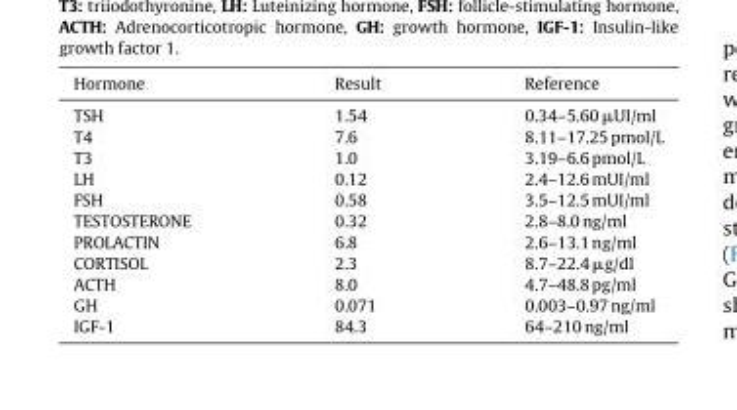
<table><thead><tr><td>Hormone</td><td>Result</td><td>Reference</td></tr></thead><tbody><tr><td>TSH</td><td>1.54</td><td>0.34–5.60 μUI/ml</td></tr><tr><td>T4</td><td>7.6</td><td>8.11–17.25 pmol/L</td></tr><tr><td>T3</td><td>1.0</td><td>3.19–6.6 pmol/L</td></tr><tr><td>LH</td><td>0.12</td><td>2.4–12.6 mUI/ml</td></tr><tr><td>FSH</td><td>0.58</td><td>3.5–12.5 mUI/ml</td></tr><tr><td>TESTOSTERONE</td><td>0.32</td><td>2.8–8.0 ng/ml</td></tr><tr><td>PROLACTIN</td><td>6.8</td><td>2.6–13.1 ng/ml</td></tr><tr><td>CORTISOL</td><td>2.3</td><td>8.7–22.4 μg/dl</td></tr><tr><td>ACTH</td><td>8.0</td><td>4.7–48.8 pg/ml</td></tr><tr><td>GH</td><td>0.071</td><td>0.003–0.97 ng/ml</td></tr><tr><td>IGF-1</td><td>84.3</td><td>64–210 ng/ml</td></tr></tbody></table>